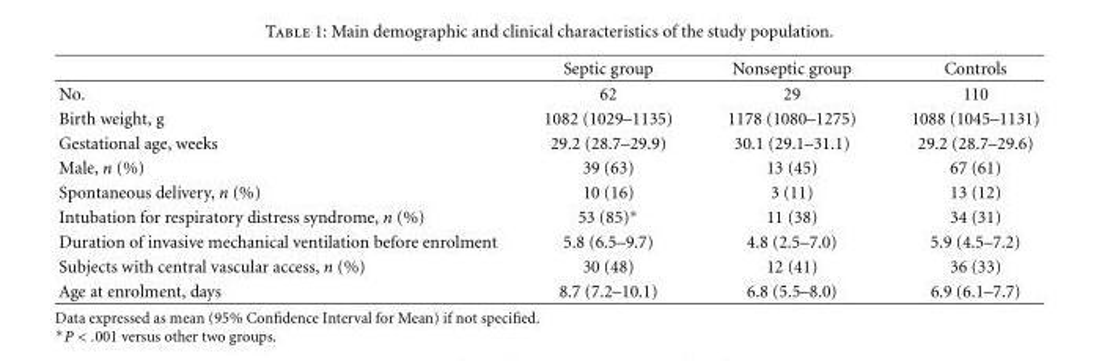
<table><thead><tr><td></td><td>Septic group</td><td>Nonseptic group</td><td>Controls</td></tr></thead><tbody><tr><td>No.</td><td>62</td><td>29</td><td>110</td></tr><tr><td>Birth weight, g</td><td>1082 (1029–1135)</td><td>1178 (1080–1275)</td><td>1088 (1045–1131)</td></tr><tr><td>Gestational age, weeks</td><td>29.2 (28.7–29.9)</td><td>30.1 (29.1–31.1)</td><td>29.2 (28.7–29.6)</td></tr><tr><td>Male, n (%)</td><td>39 (63)</td><td>13 (45)</td><td>67 (61)</td></tr><tr><td>Spontaneous delivery, n (%)</td><td>10 (16)</td><td>3 (11)</td><td>13 (12)</td></tr><tr><td>Intubation for respiratory distress syndrome, n (%)</td><td>53 (85)∗</td><td>11 (38)</td><td>34 (31)</td></tr><tr><td>Duration of invasive mechanical ventilation before enrolment</td><td>5.8 (6.5–9.7)</td><td>4.8 (2.5–7.0)</td><td>5.9 (4.5–7.2)</td></tr><tr><td>Subjects with central vascular access, n (%)</td><td>30 (48)</td><td>12 (41)</td><td>36 (33)</td></tr><tr><td>Age at enrolment, days</td><td>8.7 (7.2–10.1)</td><td>6.8 (5.5–8.0)</td><td>6.9 (6.1–7.7)</td></tr></tbody></table>